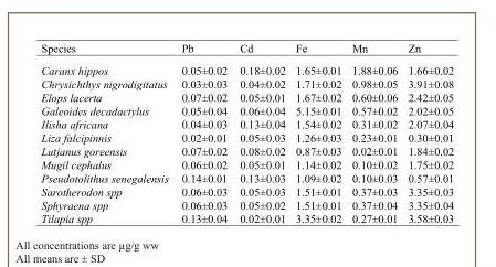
<table><thead><tr><td>Species</td><td>Pb</td><td>Cd</td><td>Fe</td><td>Mn</td><td>Zn</td></tr></thead><tbody><tr><td>Caranx hippos</td><td>0.05±0.02</td><td>0.18±0.02</td><td>1.65±0.01</td><td>1.88±0.06</td><td>1.66±0.02</td></tr><tr><td>Chrysichthys nigrodigitatus</td><td>0.03±0.03</td><td>0.04±0.02</td><td>1.71±0.02</td><td>0.98±0.05</td><td>3.91±0.08</td></tr><tr><td>Elops lacerta</td><td>0.07±0.02</td><td>0.05±0.01</td><td>1.67±0.02</td><td>0.60±0.06</td><td>2.42±0.05</td></tr><tr><td>Galeoides decadactylus</td><td>0.05±0.04</td><td>0.06±0.04</td><td>5.15±0.01</td><td>0.57±0.02</td><td>2.02±0.05</td></tr><tr><td>Ilisha africana</td><td>0.04±0.03</td><td>0.13±0.04</td><td>1.54±0.02</td><td>0.31±0.02</td><td>2.07±0.04</td></tr><tr><td>Liza falcipinnis</td><td>0.02±0.01</td><td>0.05±0.03</td><td>1.26±0.03</td><td>0.23±0.01</td><td>0.30±0.01</td></tr><tr><td>Lutjanus goreensis</td><td>0.07±0.02</td><td>0.08±0.02</td><td>0.87±0.03</td><td>0.02±0.01</td><td>1.84±0.02</td></tr><tr><td>Mugil cephalus</td><td>0.06±0.02</td><td>0.05±0.01</td><td>1.14±0.02</td><td>0.10±0.02</td><td>1.75±0.02</td></tr><tr><td>Pseudotolithus senegalensis</td><td>0.14±0.01</td><td>0.13±0.03</td><td>1.09±0.02</td><td>0.10±0.03</td><td>0.57±0.01</td></tr><tr><td>Sarotherodon spp</td><td>0.06±0.03</td><td>0.05±0.03</td><td>1.51±0.01</td><td>0.37±0.03</td><td>3.35±0.03</td></tr><tr><td>Sphyraena spp</td><td>0.06±0.03</td><td>0.05±0.02</td><td>1.51±0.01</td><td>0.37±0.04</td><td>3.35±0.04</td></tr><tr><td>Tilapia spp</td><td>0.13±0.04</td><td>0.02±0.01</td><td>3.35±0.02</td><td>0.27±0.01</td><td>3.58±0.03</td></tr></tbody></table>